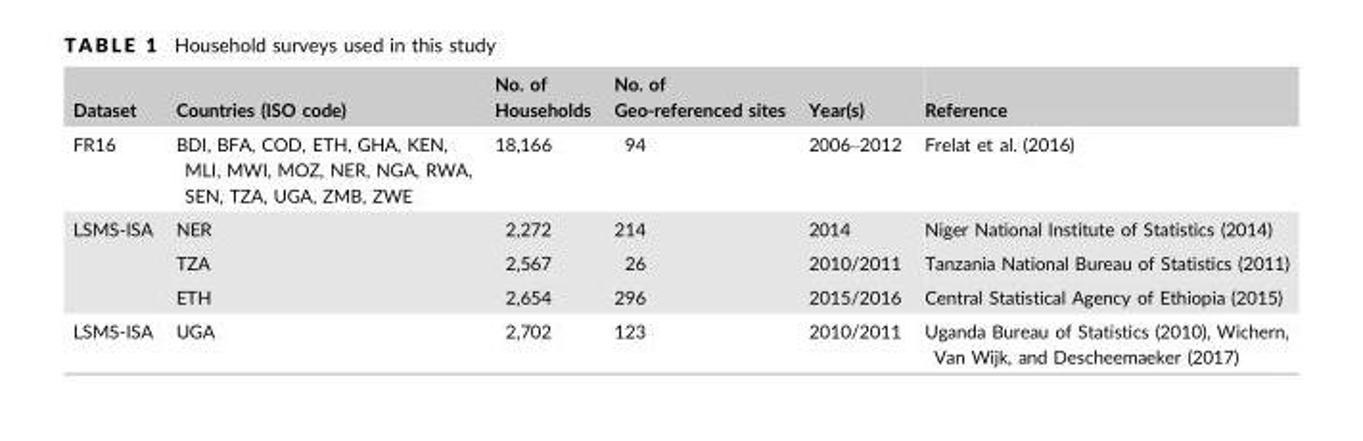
<table><thead><tr><td>Dataset</td><td>Countries (ISO code)</td><td>No. of Households</td><td>No. of Geo-referenced sites</td><td>Year(s)</td><td>Reference</td></tr></thead><tbody><tr><td>FR16</td><td>BDI, BFA, COD, ETH, GHA, KEN, MLI, MWI, MOZ, NER, NGA, RWA, SEN, TZA, UGA, ZMB, ZWE</td><td>18,166</td><td>94</td><td>2006–2012</td><td>Frelat et al. (2016)</td></tr><tr><td rowspan="3">LSMS-ISA</td><td>NER</td><td>2,272</td><td>214</td><td>2014</td><td>Niger National Institute of Statistics (2014)</td></tr><tr><td>TZA</td><td>2,567</td><td>26</td><td>2010/2011</td><td>Tanzania National Bureau of Statistics (2011)</td></tr><tr><td>ETH</td><td>2,654</td><td>296</td><td>2015/2016</td><td>Central Statistical Agency of Ethiopia (2015)</td></tr><tr><td>LSMS-ISA</td><td>UGA</td><td>2,702</td><td>123</td><td>2010/2011</td><td>Uganda Bureau of Statistics (2010), Wichern, Van Wijk, and Descheemaeker (2017)</td></tr></tbody></table>